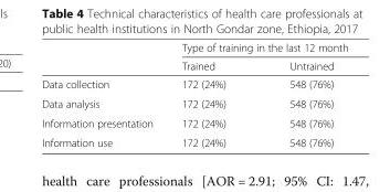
<table><thead><tr><td rowspan="2"></td><td colspan="2">Type of training in the last 12 month</td></tr><tr><td>Trained</td><td>Untrained</td></tr></thead><tbody><tr><td>Data collection</td><td>172 (24%)</td><td>548 (76%)</td></tr><tr><td>Data analysis</td><td>172 (24%)</td><td>548 (76%)</td></tr><tr><td>Information presentation</td><td>172 (24%)</td><td>548 (76%)</td></tr><tr><td>Information use</td><td>172 (24%)</td><td>548 (76%)</td></tr></tbody></table>